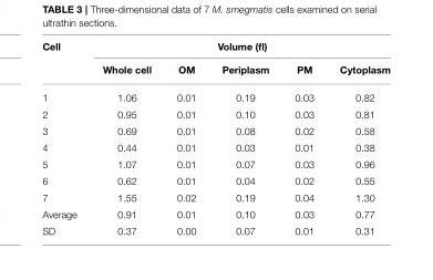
<table><thead><tr><td rowspan="2">Cell</td><td colspan="5">Volume (fl)</td></tr><tr><td>Whole cell</td><td>OM</td><td>Periplasm</td><td>PM</td><td>Cytoplasm</td></tr></thead><tbody><tr><td>1</td><td>1.06</td><td>0.01</td><td>0.19</td><td>0.03</td><td>0.82</td></tr><tr><td>2</td><td>0.95</td><td>0.01</td><td>0.10</td><td>0.03</td><td>0.81</td></tr><tr><td>3</td><td>0.69</td><td>0.01</td><td>0.08</td><td>0.02</td><td>0.58</td></tr><tr><td>4</td><td>0.44</td><td>0.01</td><td>0.03</td><td>0.01</td><td>0.38</td></tr><tr><td>5</td><td>1.07</td><td>0.01</td><td>0.07</td><td>0.03</td><td>0.96</td></tr><tr><td>6</td><td>0.62</td><td>0.01</td><td>0.04</td><td>0.02</td><td>0.55</td></tr><tr><td>7</td><td>1.55</td><td>0.02</td><td>0.19</td><td>0.04</td><td>1.30</td></tr><tr><td>Average</td><td>0.91</td><td>0.01</td><td>0.10</td><td>0.03</td><td>0.77</td></tr><tr><td>SD</td><td>0.37</td><td>0.00</td><td>0.07</td><td>0.01</td><td>0.31</td></tr></tbody></table>